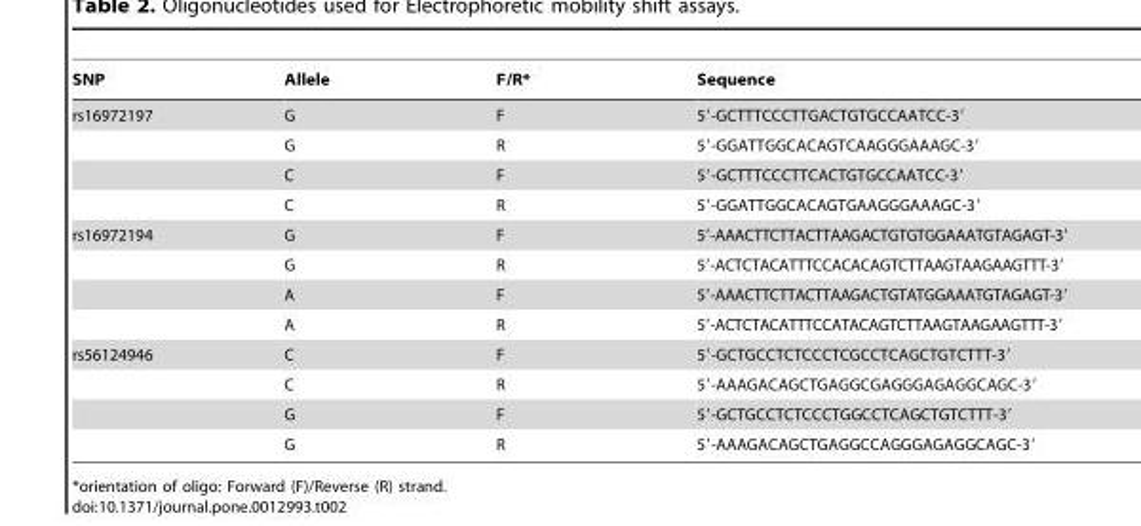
<table><thead><tr><td>SNP</td><td>Allele</td><td>F/R*</td><td>Sequence</td></tr></thead><tbody><tr><td rowspan="4">rs16972197</td><td>G</td><td>F</td><td>5′-GCTTTCCCTTGACTGTGCCAATCC-3′</td></tr><tr><td>G</td><td>R</td><td>5′-GGATTGGCACAGTCAAGGGAAAGC-3′</td></tr><tr><td>C</td><td>F</td><td>5′-GCTTTCCCTTCACTGTGCCAATCC-3′</td></tr><tr><td>C</td><td>R</td><td>5′-GGATTGGCACAGTGAAGGGAAAGC-3′</td></tr><tr><td rowspan="4">rs16972194</td><td>G</td><td>F</td><td>5′-AAACTTCTTACTTAAGACTGTGTGGAAATGTAGAGT-3′</td></tr><tr><td>G</td><td>R</td><td>5′-ACTCTACATTTCCACACAGTCTTAAGTAAGAAGTTT-3′</td></tr><tr><td>A</td><td>F</td><td>5′-AAACTTCTTACTTAAGACTGTATGGAAATGTAGAGT-3′</td></tr><tr><td>A</td><td>R</td><td>5′-ACTCTACATTTCCATACAGTCTTAAGTAAGAAGTTT-3′</td></tr><tr><td rowspan="4">rs56124946</td><td>C</td><td>F</td><td>5′-GCTGCCTCTCCCTCGCCTCAGCTGTCTTT-3′</td></tr><tr><td>C</td><td>R</td><td>5′-AAAGACAGCTGAGGCGAGGGAGAGGCAGC-3′</td></tr><tr><td>G</td><td>F</td><td>5′-GCTGCCTCTCCCTGGCCTCAGCTGTCTTT-3′</td></tr><tr><td>G</td><td>R</td><td>5′-AAAGACAGCTGAGGCCAGGGAGAGGCAGC-3′</td></tr></tbody></table>